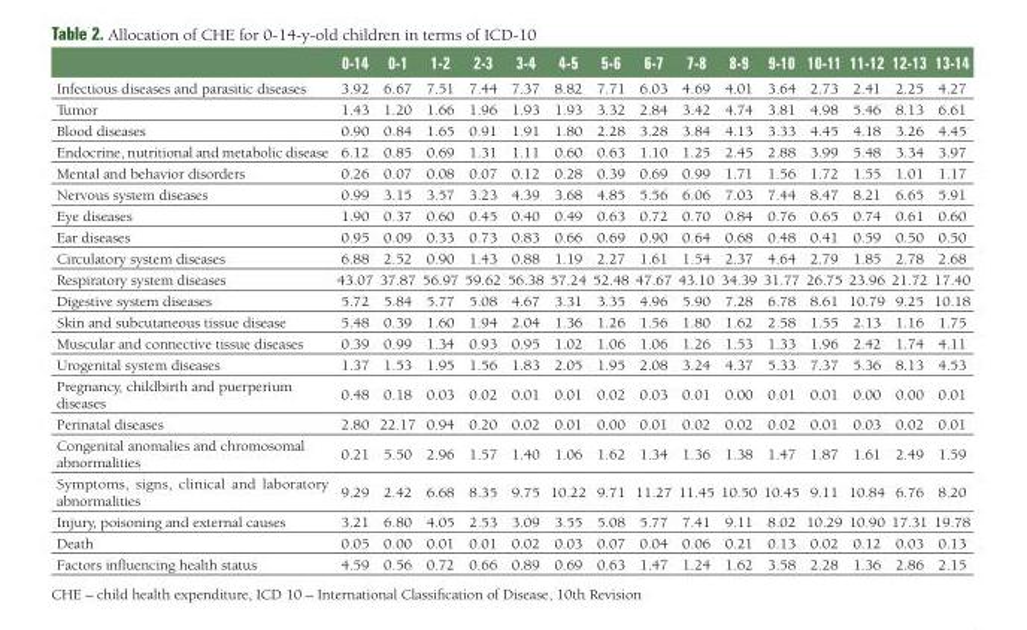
<table><thead><tr><td></td><td>0-14</td><td>0-1</td><td>1-2</td><td>2-3</td><td>3-4</td><td>4-5</td><td>5-6</td><td>6-7</td><td>7-8</td><td>8-9</td><td>9-10</td><td>10-11</td><td>11-12</td><td>12-13</td><td>13-14</td></tr></thead><tbody><tr><td>Infectious diseases and parasitic diseases</td><td>3.92</td><td>6.67</td><td>7.51</td><td>7.44</td><td>7.37</td><td>8.82</td><td>7.71</td><td>6.03</td><td>4.69</td><td>4.01</td><td>3.64</td><td>2.73</td><td>2.41</td><td>2.25</td><td>4.27</td></tr><tr><td>Tumor</td><td>1.43</td><td>1.20</td><td>1.66</td><td>1.96</td><td>1.93</td><td>1.93</td><td>3.32</td><td>2.84</td><td>3.42</td><td>4.74</td><td>3.81</td><td>4.98</td><td>5.46</td><td>8.13</td><td>6.61</td></tr><tr><td>Blood diseases</td><td>0.90</td><td>0.84</td><td>1.65</td><td>0.91</td><td>1.91</td><td>1.80</td><td>2.28</td><td>3.28</td><td>3.84</td><td>4.13</td><td>3.33</td><td>4.45</td><td>4.18</td><td>3.26</td><td>4.45</td></tr><tr><td>Endocrine, nutritional and metabolic disease</td><td>6.12</td><td>0.85</td><td>0.69</td><td>1.31</td><td>1.11</td><td>0.60</td><td>0.63</td><td>1.10</td><td>1.25</td><td>2.45</td><td>2.88</td><td>3.99</td><td>5.48</td><td>3.34</td><td>3.97</td></tr><tr><td>Mental and behavior disorders</td><td>0.26</td><td>0.07</td><td>0.08</td><td>0.07</td><td>0.12</td><td>0.28</td><td>0.39</td><td>0.69</td><td>0.99</td><td>1.71</td><td>1.56</td><td>1.72</td><td>1.55</td><td>1.01</td><td>1.17</td></tr><tr><td>Nervous system diseases</td><td>0.99</td><td>3.15</td><td>3.57</td><td>3.23</td><td>4.39</td><td>3.68</td><td>4.85</td><td>5.56</td><td>6.06</td><td>7.03</td><td>7.44</td><td>8.47</td><td>8.21</td><td>6.65</td><td>5.91</td></tr><tr><td>Eye diseases</td><td>1.90</td><td>0.37</td><td>0.60</td><td>0.45</td><td>0.40</td><td>0.49</td><td>0.63</td><td>0.72</td><td>0.70</td><td>0.84</td><td>0.76</td><td>0.65</td><td>0.74</td><td>0.61</td><td>0.60</td></tr><tr><td>Ear diseases</td><td>0.95</td><td>0.09</td><td>0.33</td><td>0.73</td><td>0.83</td><td>0.66</td><td>0.69</td><td>0.90</td><td>0.64</td><td>0.68</td><td>0.48</td><td>0.41</td><td>0.59</td><td>0.50</td><td>0.50</td></tr><tr><td>Circulatory system diseases</td><td>6.88</td><td>2.52</td><td>0.90</td><td>1.43</td><td>0.88</td><td>1.19</td><td>2.27</td><td>1.61</td><td>1.54</td><td>2.37</td><td>4.64</td><td>2.79</td><td>1.85</td><td>2.78</td><td>2.68</td></tr><tr><td>Respiratory system diseases</td><td>43.07</td><td>37.87</td><td>56.97</td><td>59.62</td><td>56.38</td><td>57.24</td><td>52.48</td><td>47.67</td><td>43.10</td><td>34.39</td><td>31.77</td><td>26.75</td><td>23.96</td><td>21.72</td><td>17.40</td></tr><tr><td>Digestive system diseases</td><td>5.72</td><td>5.84</td><td>5.77</td><td>5.08</td><td>4.67</td><td>3.31</td><td>3.35</td><td>4.96</td><td>5.90</td><td>7.28</td><td>6.78</td><td>8.61</td><td>10.79</td><td>9.25</td><td>10.18</td></tr><tr><td>Skin and subcutaneous tissue disease</td><td>5.48</td><td>0.39</td><td>1.60</td><td>1.94</td><td>2.04</td><td>1.36</td><td>1.26</td><td>1.56</td><td>1.80</td><td>1.62</td><td>2.58</td><td>1.55</td><td>2.13</td><td>1.16</td><td>1.75</td></tr><tr><td>Muscular and connective tissue diseases</td><td>0.39</td><td>0.99</td><td>1.34</td><td>0.93</td><td>0.95</td><td>1.02</td><td>1.06</td><td>1.06</td><td>1.26</td><td>1.53</td><td>1.33</td><td>1.96</td><td>2.42</td><td>1.74</td><td>4.11</td></tr><tr><td>Urogenital system diseases</td><td>1.37</td><td>1.53</td><td>1.95</td><td>1.56</td><td>1.83</td><td>2.05</td><td>1.95</td><td>2.08</td><td>3.24</td><td>4.37</td><td>5.33</td><td>7.37</td><td>5.36</td><td>8.13</td><td>4.53</td></tr><tr><td>Pregnancy, childbirth and puerperium diseases</td><td>0.48</td><td>0.18</td><td>0.03</td><td>0.02</td><td>0.01</td><td>0.01</td><td>0.02</td><td>0.03</td><td>0.01</td><td>0.00</td><td>0.01</td><td>0.01</td><td>0.00</td><td>0.00</td><td>0.01</td></tr><tr><td>Perinatal diseases</td><td>2.80</td><td>22.17</td><td>0.94</td><td>0.20</td><td>0.02</td><td>0.01</td><td>0.00</td><td>0.01</td><td>0.02</td><td>0.02</td><td>0.02</td><td>0.01</td><td>0.03</td><td>0.02</td><td>0.01</td></tr><tr><td>Congenital anomalies and chromosomal abnormalities</td><td>0.21</td><td>5.50</td><td>2.96</td><td>1.57</td><td>1.40</td><td>1.06</td><td>1.62</td><td>1.34</td><td>1.36</td><td>1.38</td><td>1.47</td><td>1.87</td><td>1.61</td><td>2.49</td><td>1.59</td></tr><tr><td>Symptoms, signs, clinical and laboratory abnormalities</td><td>9.29</td><td>2.42</td><td>6.68</td><td>8.35</td><td>9.75</td><td>10.22</td><td>9.71</td><td>11.27</td><td>11.45</td><td>10.50</td><td>10.45</td><td>9.11</td><td>10.84</td><td>6.76</td><td>8.20</td></tr><tr><td>Injury, poisoning and external causes</td><td>3.21</td><td>6.80</td><td>4.05</td><td>2.53</td><td>3.09</td><td>3.55</td><td>5.08</td><td>5.77</td><td>7.41</td><td>9.11</td><td>8.02</td><td>10.29</td><td>10.90</td><td>17.31</td><td>19.78</td></tr><tr><td>Death</td><td>0.05</td><td>0.00</td><td>0.01</td><td>0.01</td><td>0.02</td><td>0.03</td><td>0.07</td><td>0.04</td><td>0.06</td><td>0.21</td><td>0.13</td><td>0.02</td><td>0.12</td><td>0.03</td><td>0.13</td></tr><tr><td>Factors influencing health status</td><td>4.59</td><td>0.56</td><td>0.72</td><td>0.66</td><td>0.89</td><td>0.69</td><td>0.63</td><td>1.47</td><td>1.24</td><td>1.62</td><td>3.58</td><td>2.28</td><td>1.36</td><td>2.86</td><td>2.15</td></tr></tbody></table>